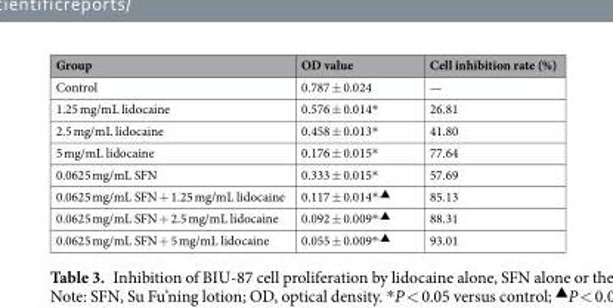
<table><thead><tr><td>Group</td><td>OD value</td><td>Cell inhibition rate (%)</td></tr></thead><tbody><tr><td>Control</td><td>0.787 ± 0.024</td><td>—</td></tr><tr><td>1.25 mg/mL lidocaine</td><td>0.576 ± 0.014*</td><td>26.81</td></tr><tr><td>2.5 mg/mL lidocaine</td><td>0.458 ± 0.013*</td><td>41.80</td></tr><tr><td>5 mg/mL lidocaine</td><td>0.176 ± 0.015*</td><td>77.64</td></tr><tr><td>0.0625 mg/mL SFN</td><td>0.333 ± 0.015*</td><td>57.69</td></tr><tr><td>0.0625 mg/mL SFN + 1.25 mg/mL lidocaine</td><td>0.117 ± 0.014*<sup>,▲</sup></td><td>85.13</td></tr><tr><td>0.0625 mg/mL SFN + 2.5 mg/mL lidocaine</td><td>0.092 ± 0.009*<sup>,▲</sup></td><td>88.31</td></tr><tr><td>0.0625 mg/mL SFN + 5 mg/mL lidocaine</td><td>0.055 ± 0.009*<sup>,▲</sup></td><td>93.01</td></tr></tbody></table>